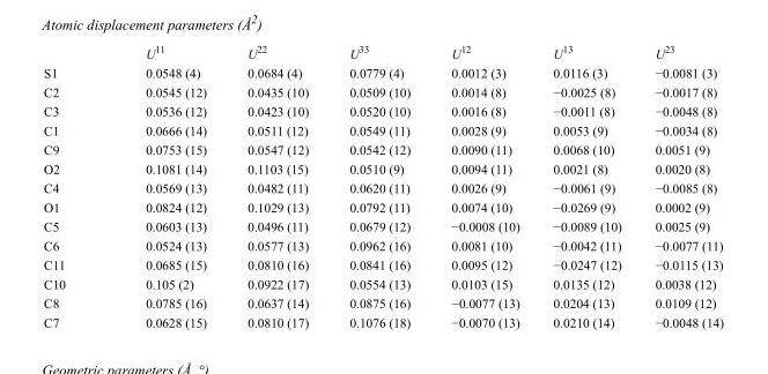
<table><thead><tr><td></td><td>U<sup>11</sup></td><td>U<sup>22</sup></td><td>U<sup>33</sup></td><td>U<sup>12</sup></td><td>U<sup>13</sup></td><td>U<sup>23</sup></td></tr></thead><tbody><tr><td>S1</td><td>0.0548 (4)</td><td>0.0684 (4)</td><td>0.0779 (4)</td><td>0.0012 (3)</td><td>0.0116 (3)</td><td>−0.0081 (3)</td></tr><tr><td>C2</td><td>0.0545 (12)</td><td>0.0435 (10)</td><td>0.0509 (10)</td><td>0.0014 (8)</td><td>−0.0025 (8)</td><td>−0.0017 (8)</td></tr><tr><td>C3</td><td>0.0536 (12)</td><td>0.0423 (10)</td><td>0.0520 (10)</td><td>0.0016 (8)</td><td>−0.0011 (8)</td><td>−0.0048 (8)</td></tr><tr><td>C1</td><td>0.0666 (14)</td><td>0.0511 (12)</td><td>0.0549 (11)</td><td>0.0028 (9)</td><td>0.0053 (9)</td><td>−0.0034 (8)</td></tr><tr><td>C9</td><td>0.0753 (15)</td><td>0.0547 (12)</td><td>0.0542 (12)</td><td>0.0090 (11)</td><td>0.0068 (10)</td><td>0.0051 (9)</td></tr><tr><td>O2</td><td>0.1081 (14)</td><td>0.1103 (15)</td><td>0.0510 (9)</td><td>0.0094 (11)</td><td>0.0021 (8)</td><td>0.0020 (8)</td></tr><tr><td>C4</td><td>0.0569 (13)</td><td>0.0482 (11)</td><td>0.0620 (11)</td><td>0.0026 (9)</td><td>−0.0061 (9)</td><td>−0.0085 (8)</td></tr><tr><td>O1</td><td>0.0824 (12)</td><td>0.1029 (13)</td><td>0.0792 (11)</td><td>0.0074 (10)</td><td>−0.0269 (9)</td><td>0.0002 (9)</td></tr><tr><td>C5</td><td>0.0603 (13)</td><td>0.0496 (11)</td><td>0.0679 (12)</td><td>−0.0008 (10)</td><td>−0.0089 (10)</td><td>0.0025 (9)</td></tr><tr><td>C6</td><td>0.0524 (13)</td><td>0.0577 (13)</td><td>0.0962 (16)</td><td>0.0081 (10)</td><td>−0.0042 (11)</td><td>−0.0077 (11)</td></tr><tr><td>C11</td><td>0.0685 (15)</td><td>0.0810 (16)</td><td>0.0841 (16)</td><td>0.0095 (12)</td><td>−0.0247 (12)</td><td>−0.0115 (13)</td></tr><tr><td>C10</td><td>0.105 (2)</td><td>0.0922 (17)</td><td>0.0554 (13)</td><td>0.0103 (15)</td><td>0.0135 (12)</td><td>0.0038 (12)</td></tr><tr><td>C8</td><td>0.0785 (16)</td><td>0.0637 (14)</td><td>0.0875 (16)</td><td>−0.0077 (13)</td><td>0.0204 (13)</td><td>0.0109 (12)</td></tr><tr><td>C7</td><td>0.0628 (15)</td><td>0.0810 (17)</td><td>0.1076 (18)</td><td>−0.0070 (13)</td><td>0.0210 (14)</td><td>−0.0048 (14)</td></tr></tbody></table>